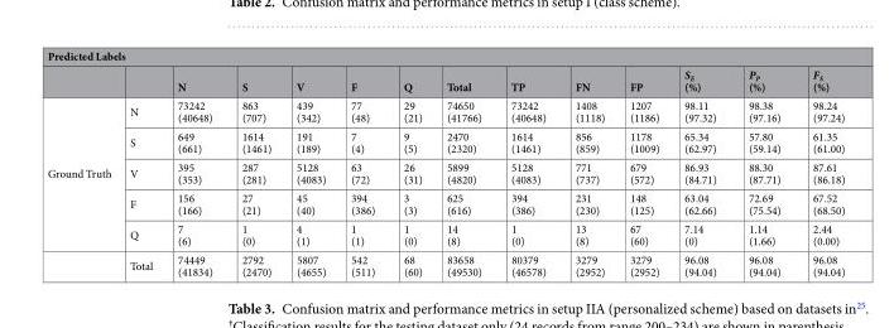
<table><thead><tr><td colspan="14">Predicted Labels</td></tr><tr><td></td><td></td><td>N</td><td>S</td><td>V</td><td>F</td><td>Q</td><td>Total</td><td>TP</td><td>FN</td><td>FP</td><td>S<sub>E</sub> (%)</td><td>P<sub>P</sub> (%)</td><td>F<sub>S</sub> (%)</td></tr></thead><tbody><tr><td rowspan="6">Ground Truth</td><td>N</td><td>73242 (40648)</td><td>863 (707)</td><td>439 (342)</td><td>77 (48)</td><td>29 (21)</td><td>74650 (41766)</td><td>73242 (40648)</td><td>1408 (1118)</td><td>1207 (1186)</td><td>98.11 (97.32)</td><td>98.38 (97.16)</td><td>98.24 (97.24)</td></tr><tr><td>S</td><td>649 (661)</td><td>1614 (1461)</td><td>191 (189)</td><td>7 (4)</td><td>9 (5)</td><td>2470 (2320)</td><td>1614 (1461)</td><td>856 (859)</td><td>1178 (1009)</td><td>65.34 (62.97)</td><td>57.80 (59.14)</td><td>61.35 (61.00)</td></tr><tr><td>V</td><td>395 (353)</td><td>287 (281)</td><td>5128 (4083)</td><td>63 (72)</td><td>26 (31)</td><td>5899 (4820)</td><td>5128 (4083)</td><td>771 (737)</td><td>679 (572)</td><td>86.93 (84.71)</td><td>88.30 (87.71)</td><td>87.61 (86.18)</td></tr><tr><td>F</td><td>156 (166)</td><td>27 (21)</td><td>45 (40)</td><td>394 (386)</td><td>3 (3)</td><td>625 (616)</td><td>394 (386)</td><td>231 (230)</td><td>148 (125)</td><td>63.04 (62.66)</td><td>72.69 (75.54)</td><td>67.52 (68.50)</td></tr><tr><td>Q</td><td>7 (6)</td><td>1 (0)</td><td>4 (1)</td><td>1 (1)</td><td>1 (0)</td><td>14 (8)</td><td>1 (0)</td><td>13 (8)</td><td>67 (60)</td><td>7.14 (0)</td><td>1.14 (1.66)</td><td>2.44 (0.00)</td></tr><tr><td>Total</td><td>74449 (41834)</td><td>2792 (2470)</td><td>5807 (4655)</td><td>542 (511)</td><td>68 (60)</td><td>83658 (49530)</td><td>80379 (46578)</td><td>3279 (2952)</td><td>3279 (2952)</td><td>96.08 (94.04)</td><td>96.08 (94.04)</td><td>96.08 (94.04)</td></tr></tbody></table>